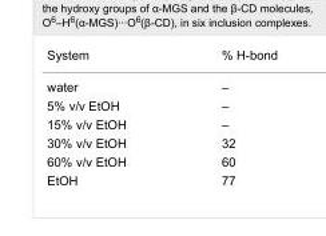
<table><tbody><tr><td>System</td><td>% H-bond</td></tr><tr><td>water</td><td>–</td></tr><tr><td>5% v/v EtOH</td><td>–</td></tr><tr><td>15% v/v EtOH</td><td>–</td></tr><tr><td>30% v/v EtOH</td><td>32</td></tr><tr><td>60% v/v EtOH</td><td>60</td></tr><tr><td>EtOH</td><td>77</td></tr></tbody></table>